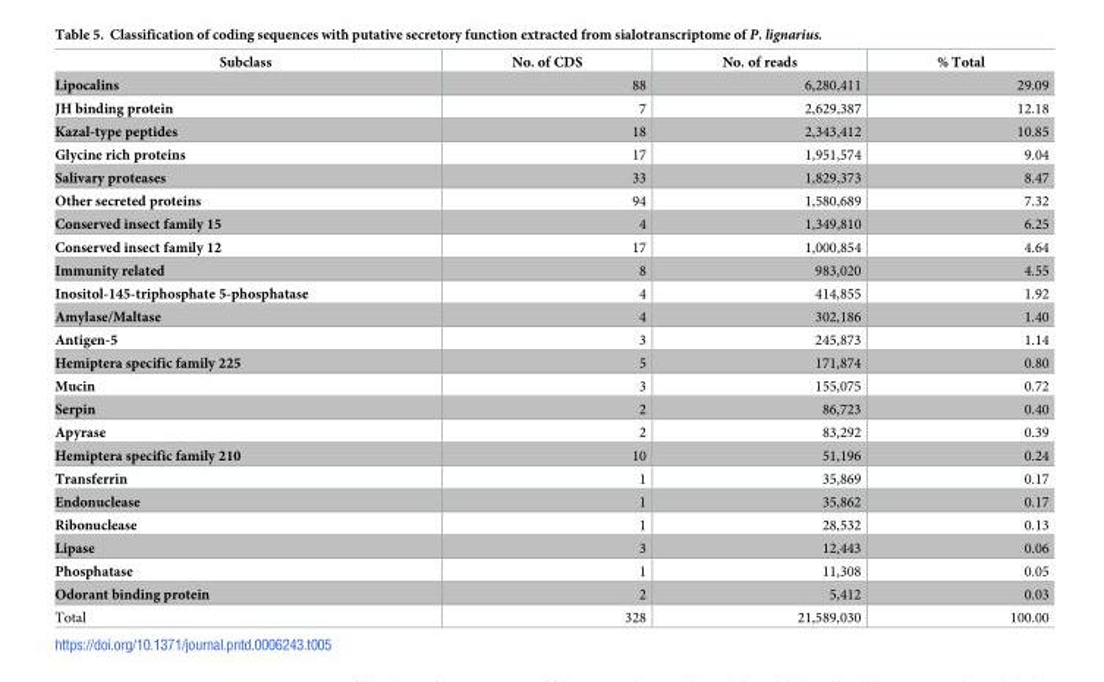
<table><thead><tr><td>Subclass</td><td>No. of CDS</td><td>No. of reads</td><td>% Total</td></tr></thead><tbody><tr><td>Lipocalins</td><td>88</td><td>6,280,411</td><td>29.09</td></tr><tr><td>JH binding protein</td><td>7</td><td>2,629,387</td><td>12.18</td></tr><tr><td>Kazal-type peptides</td><td>18</td><td>2,343,412</td><td>10.85</td></tr><tr><td>Glycine rich proteins</td><td>17</td><td>1,951,574</td><td>9.04</td></tr><tr><td>Salivary proteases</td><td>33</td><td>1,829,373</td><td>8.47</td></tr><tr><td>Other secreted proteins</td><td>94</td><td>1,580,689</td><td>7.32</td></tr><tr><td>Conserved insect family 15</td><td>4</td><td>1,349,810</td><td>6.25</td></tr><tr><td>Conserved insect family 12</td><td>17</td><td>1,000,854</td><td>4.64</td></tr><tr><td>Immunity related</td><td>8</td><td>983,020</td><td>4.55</td></tr><tr><td>Inositol-145-triphosphate 5-phosphatase</td><td>4</td><td>414,855</td><td>1.92</td></tr><tr><td>Amylase/Maltase</td><td>4</td><td>302,186</td><td>1.40</td></tr><tr><td>Antigen-5</td><td>3</td><td>245,873</td><td>1.14</td></tr><tr><td>Hemiptera specific family 225</td><td>5</td><td>171,874</td><td>0.80</td></tr><tr><td>Mucin</td><td>3</td><td>155,075</td><td>0.72</td></tr><tr><td>Serpin</td><td>2</td><td>86,723</td><td>0.40</td></tr><tr><td>Apyrase</td><td>2</td><td>83,292</td><td>0.39</td></tr><tr><td>Hemiptera specific family 210</td><td>10</td><td>51,196</td><td>0.24</td></tr><tr><td>Transferrin</td><td>1</td><td>35,869</td><td>0.17</td></tr><tr><td>Endonuclease</td><td>1</td><td>35,862</td><td>0.17</td></tr><tr><td>Ribonuclease</td><td>1</td><td>28,532</td><td>0.13</td></tr><tr><td>Lipase</td><td>3</td><td>12,443</td><td>0.06</td></tr><tr><td>Phosphatase</td><td>1</td><td>11,308</td><td>0.05</td></tr><tr><td>Odorant binding protein</td><td>2</td><td>5,412</td><td>0.03</td></tr><tr><td>Total</td><td>328</td><td>21,589,030</td><td>100.00</td></tr></tbody></table>